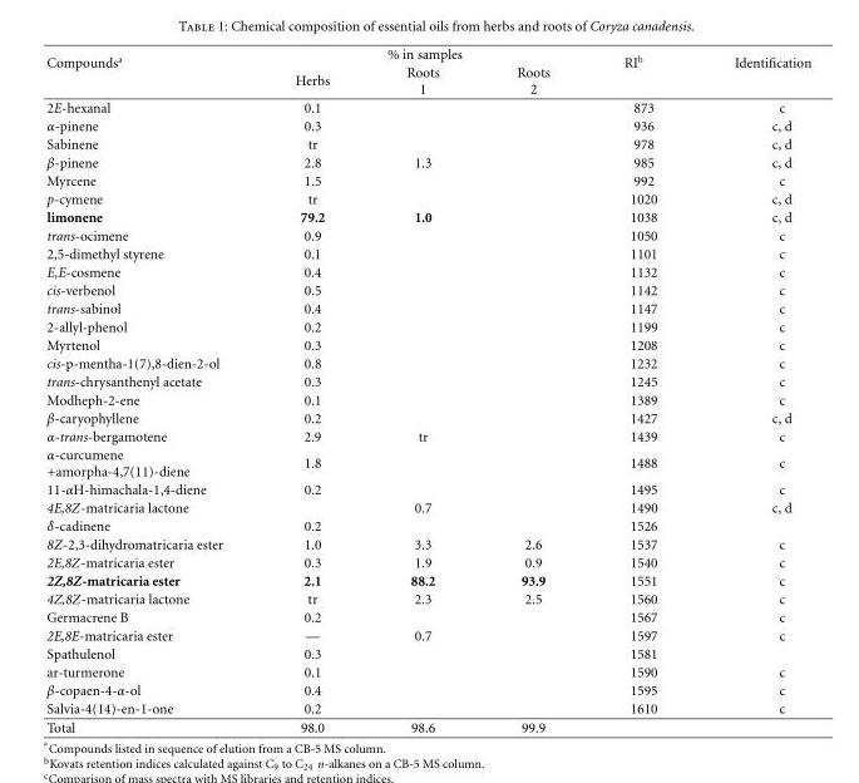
<table><thead><tr><td rowspan="2">Compounds<sup>a</sup></td><td colspan="3">% in samples</td><td rowspan="2">RI<sup>b</sup></td><td rowspan="2">Identification</td></tr><tr><td>Herbs</td><td>Roots 1</td><td>Roots 2</td></tr></thead><tbody><tr><td>2E-hexanal</td><td>0.1</td><td></td><td></td><td>873</td><td>c</td></tr><tr><td>α-pinene</td><td>0.3</td><td></td><td></td><td>936</td><td>c, d</td></tr><tr><td>Sabinene</td><td>tr</td><td></td><td></td><td>978</td><td>c, d</td></tr><tr><td>β-pinene</td><td>2.8</td><td>1.3</td><td></td><td>985</td><td>c, d</td></tr><tr><td>Myrcene</td><td>1.5</td><td></td><td></td><td>992</td><td>c</td></tr><tr><td>p-cymene</td><td>tr</td><td></td><td></td><td>1020</td><td>c, d</td></tr><tr><td>limonene</td><td>79.2</td><td>1.0</td><td></td><td>1038</td><td>c, d</td></tr><tr><td>trans-ocimene</td><td>0.9</td><td></td><td></td><td>1050</td><td>c</td></tr><tr><td>2,5-dimethyl styrene</td><td>0.1</td><td></td><td></td><td>1101</td><td>c</td></tr><tr><td>E,E-cosmene</td><td>0.4</td><td></td><td></td><td>1132</td><td>c</td></tr><tr><td>cis-verbenol</td><td>0.5</td><td></td><td></td><td>1142</td><td>c</td></tr><tr><td>trans-sabinol</td><td>0.4</td><td></td><td></td><td>1147</td><td>c</td></tr><tr><td>2-allyl-phenol</td><td>0.2</td><td></td><td></td><td>1199</td><td>c</td></tr><tr><td>Myrtenol</td><td>0.3</td><td></td><td></td><td>1208</td><td>c</td></tr><tr><td>cis-p-mentha-1(7),8-dien-2-ol</td><td>0.8</td><td></td><td></td><td>1232</td><td>c</td></tr><tr><td>trans-chrysanthenyl acetate</td><td>0.3</td><td></td><td></td><td>1245</td><td>c</td></tr><tr><td>Modheph-2-ene</td><td>0.1</td><td></td><td></td><td>1389</td><td>c</td></tr><tr><td>β-caryophyllene</td><td>0.2</td><td></td><td></td><td>1427</td><td>c, d</td></tr><tr><td>α-trans-bergamotene</td><td>2.9</td><td>tr</td><td></td><td>1439</td><td>c</td></tr><tr><td>α-curcumene +amorpha-4,7(11)-diene</td><td>1.8</td><td></td><td></td><td>1488</td><td>c</td></tr><tr><td>11-αH-himachala-1,4-diene</td><td>0.2</td><td></td><td></td><td>1495</td><td>c</td></tr><tr><td>4E,8Z-matricaria lactone</td><td></td><td>0.7</td><td></td><td>1490</td><td>c, d</td></tr><tr><td>δ-cadinene</td><td>0.2</td><td></td><td></td><td>1526</td><td></td></tr><tr><td>8Z-2,3-dihydromatricaria ester</td><td>1.0</td><td>3.3</td><td>2.6</td><td>1537</td><td>c</td></tr><tr><td>2E,8Z-matricaria ester</td><td>0.3</td><td>1.9</td><td>0.9</td><td>1540</td><td>c</td></tr><tr><td>2Z,8Z-matricaria ester</td><td>2.1</td><td>88.2</td><td>93.9</td><td>1551</td><td>c</td></tr><tr><td>4Z,8Z-matricaria lactone</td><td>tr</td><td>2.3</td><td>2.5</td><td>1560</td><td>c</td></tr><tr><td>Germacrene B</td><td>0.2</td><td></td><td></td><td>1567</td><td>c</td></tr><tr><td>2E,8E-matricaria ester</td><td>—</td><td>0.7</td><td></td><td>1597</td><td>c</td></tr><tr><td>Spathulenol</td><td>0.3</td><td></td><td></td><td>1581</td><td></td></tr><tr><td>ar-turmerone</td><td>0.1</td><td></td><td></td><td>1590</td><td>c</td></tr><tr><td>β-copaen-4-α-ol</td><td>0.4</td><td></td><td></td><td>1595</td><td>c</td></tr><tr><td>Salvia-4(14)-en-1-one</td><td>0.2</td><td></td><td></td><td>1610</td><td>c</td></tr><tr><td>Total</td><td>98.0</td><td>98.6</td><td>99.9</td><td></td><td></td></tr></tbody></table>